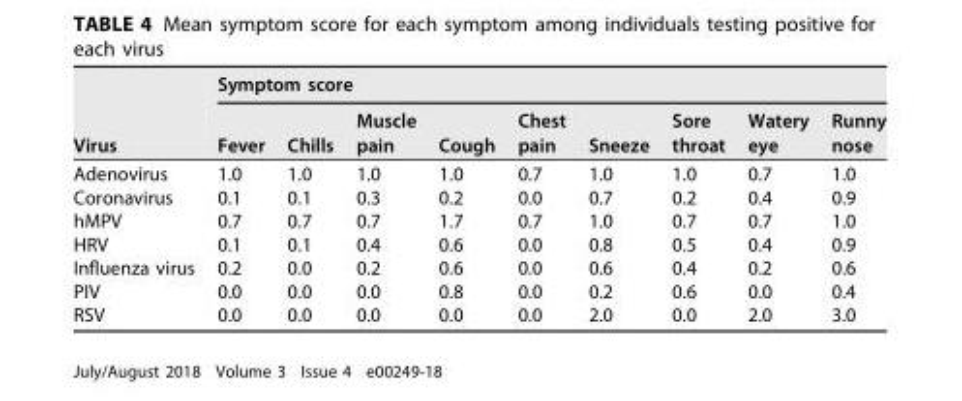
<table><thead><tr><td rowspan="2">Virus</td><td colspan="9">Symptom score</td></tr><tr><td>Fever</td><td>Chills</td><td>Muscle pain</td><td>Cough</td><td>Chest pain</td><td>Sneeze</td><td>Sore throat</td><td>Watery eye</td><td>Runny nose</td></tr></thead><tbody><tr><td>Adenovirus</td><td>1.0</td><td>1.0</td><td>1.0</td><td>1.0</td><td>0.7</td><td>1.0</td><td>1.0</td><td>0.7</td><td>1.0</td></tr><tr><td>Coronavirus</td><td>0.1</td><td>0.1</td><td>0.3</td><td>0.2</td><td>0.0</td><td>0.7</td><td>0.2</td><td>0.4</td><td>0.9</td></tr><tr><td>hMPV</td><td>0.7</td><td>0.7</td><td>0.7</td><td>1.7</td><td>0.7</td><td>1.0</td><td>0.7</td><td>0.7</td><td>1.0</td></tr><tr><td>HRV</td><td>0.1</td><td>0.1</td><td>0.4</td><td>0.6</td><td>0.0</td><td>0.8</td><td>0.5</td><td>0.4</td><td>0.9</td></tr><tr><td>Influenza virus</td><td>0.2</td><td>0.0</td><td>0.2</td><td>0.6</td><td>0.0</td><td>0.6</td><td>0.4</td><td>0.2</td><td>0.6</td></tr><tr><td>PIV</td><td>0.0</td><td>0.0</td><td>0.0</td><td>0.8</td><td>0.0</td><td>0.2</td><td>0.6</td><td>0.0</td><td>0.4</td></tr><tr><td>RSV</td><td>0.0</td><td>0.0</td><td>0.0</td><td>0.0</td><td>0.0</td><td>2.0</td><td>0.0</td><td>2.0</td><td>3.0</td></tr></tbody></table>